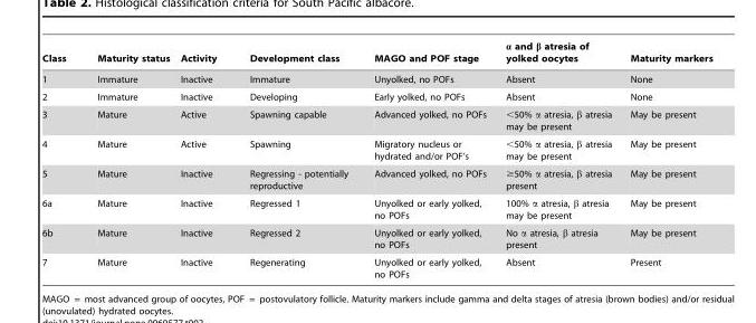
<table><thead><tr><td>Class</td><td>Maturity status</td><td>Activity</td><td>Development class</td><td>MAGO and POF stage</td><td>α and β atresia of yolked oocytes</td><td>Maturity markers</td></tr></thead><tbody><tr><td>1</td><td>Immature</td><td>Inactive</td><td>Immature</td><td>Unyolked, no POFs</td><td>Absent</td><td>None</td></tr><tr><td>2</td><td>Immature</td><td>Inactive</td><td>Developing</td><td>Early yolked, no POFs</td><td>Absent</td><td>None</td></tr><tr><td>3</td><td>Mature</td><td>Active</td><td>Spawning capable</td><td>Advanced yolked, no POFs</td><td>&lt;50% α atresia, β atresia may be present</td><td>May be present</td></tr><tr><td>4</td><td>Mature</td><td>Active</td><td>Spawning</td><td>Migratory nucleus or hydrated and/or POF’s</td><td>&lt;50% α atresia, β atresia may be present</td><td>May be present</td></tr><tr><td>5</td><td>Mature</td><td>Inactive</td><td>Regressing - potentially reproductive</td><td>Advanced yolked, no POFs</td><td>≥50% α atresia, β atresia present</td><td>May be present</td></tr><tr><td>6a</td><td>Mature</td><td>Inactive</td><td>Regressed 1</td><td>Unyolked or early yolked, no POFs</td><td>100% α atresia, β atresia may be present</td><td>May be present</td></tr><tr><td>6b</td><td>Mature</td><td>Inactive</td><td>Regressed 2</td><td>Unyolked or early yolked, no POFs</td><td>No α atresia, β atresia present</td><td>May be present</td></tr><tr><td>7</td><td>Mature</td><td>Inactive</td><td>Regenerating</td><td>Unyolked or early yolked, no POFs</td><td>Absent</td><td>Present</td></tr></tbody></table>